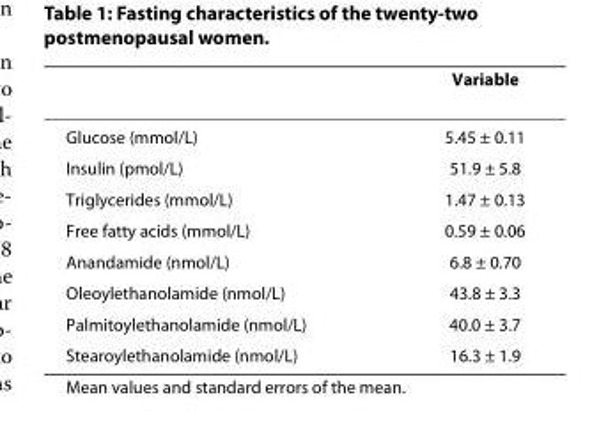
<table><thead><tr><td></td><td>Variable</td></tr></thead><tbody><tr><td>Glucose (mmol/L)</td><td>5.45 ± 0.11</td></tr><tr><td>Insulin (pmol/L)</td><td>51.9 ± 5.8</td></tr><tr><td>Triglycerides (mmol/L)</td><td>1.47 ± 0.13</td></tr><tr><td>Free fatty acids (mmol/L)</td><td>0.59 ± 0.06</td></tr><tr><td>Anandamide (nmol/L)</td><td>6.8 ± 0.70</td></tr><tr><td>Oleoylethanolamide (nmol/L)</td><td>43.8 ± 3.3</td></tr><tr><td>Palmitoylethanolamide (nmol/L)</td><td>40.0 ± 3.7</td></tr><tr><td>Stearoylethanolamide (nmol/L)</td><td>16.3 ± 1.9</td></tr></tbody></table>